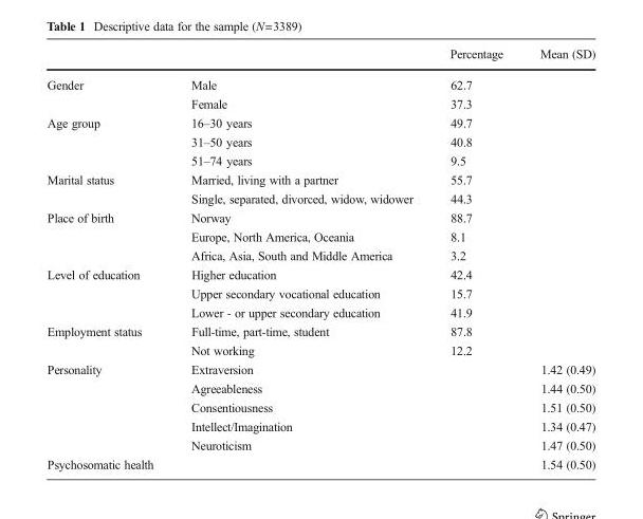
<table><thead><tr><td></td><td></td><td>Percentage</td><td>Mean (SD)</td></tr></thead><tbody><tr><td rowspan="2">Gender</td><td>Male</td><td>62.7</td><td></td></tr><tr><td>Female</td><td>37.3</td><td></td></tr><tr><td rowspan="3">Age group</td><td>16–30 years</td><td>49.7</td><td></td></tr><tr><td>31–50 years</td><td>40.8</td><td></td></tr><tr><td>51–74 years</td><td>9.5</td><td></td></tr><tr><td rowspan="2">Marital status</td><td>Married, living with a partner</td><td>55.7</td><td></td></tr><tr><td>Single, separated, divorced, widow, widower</td><td>44.3</td><td></td></tr><tr><td rowspan="3">Place of birth</td><td>Norway</td><td>88.7</td><td></td></tr><tr><td>Europe, North America, Oceania</td><td>8.1</td><td></td></tr><tr><td>Africa, Asia, South and Middle America</td><td>3.2</td><td></td></tr><tr><td rowspan="3">Level of education</td><td>Higher education</td><td>42.4</td><td></td></tr><tr><td>Upper secondary vocational education</td><td>15.7</td><td></td></tr><tr><td>Lower - or upper secondary education</td><td>41.9</td><td></td></tr><tr><td rowspan="2">Employment status</td><td>Full-time, part-time, student</td><td>87.8</td><td></td></tr><tr><td>Not working</td><td>12.2</td><td></td></tr><tr><td rowspan="5">Personality</td><td>Extraversion</td><td></td><td>1.42 (0.49)</td></tr><tr><td>Agreeableness</td><td></td><td>1.44 (0.50)</td></tr><tr><td>Consentiousness</td><td></td><td>1.51 (0.50)</td></tr><tr><td>Intellect/Imagination</td><td></td><td>1.34 (0.47)</td></tr><tr><td>Neuroticism</td><td></td><td>1.47 (0.50)</td></tr><tr><td>Psychosomatic health</td><td></td><td></td><td>1.54 (0.50)</td></tr></tbody></table>